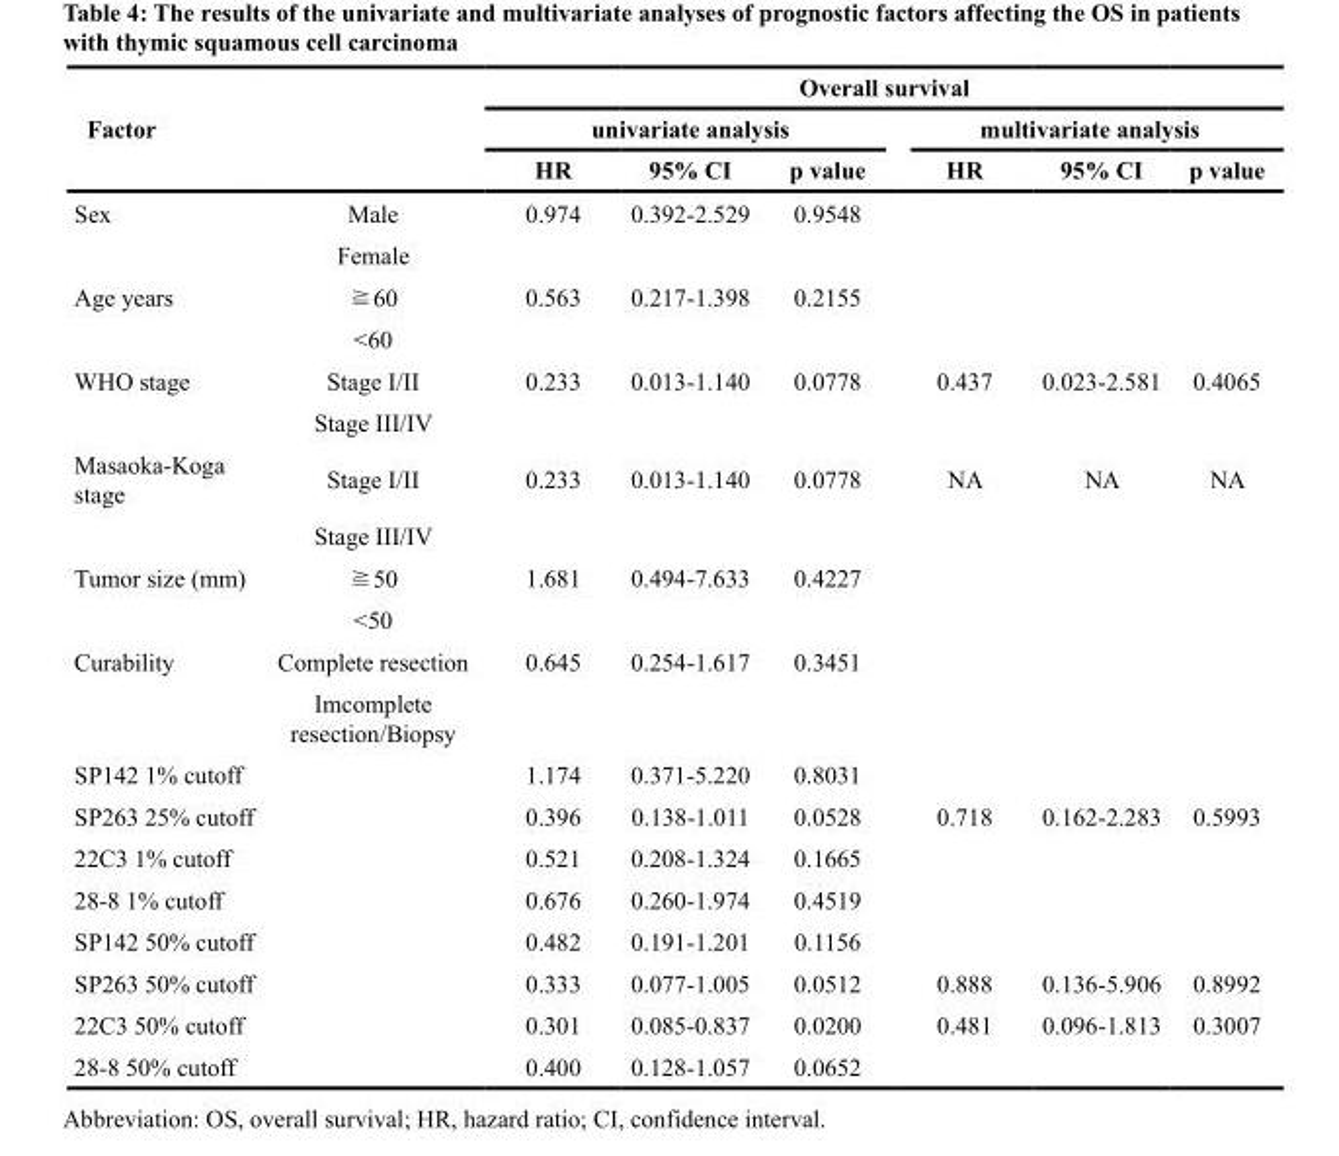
<table><thead><tr><td rowspan="3" colspan="2">Factor</td><td colspan="6">Overall survival</td></tr><tr><td colspan="3">univariate analysis</td><td colspan="3">multivariate analysis</td></tr><tr><td rowspan="2">HR 0.974</td><td rowspan="2">95% CI 0.392-2.529</td><td rowspan="2">p value 0.9548</td><td rowspan="2">HR</td><td rowspan="2">95% CI</td><td rowspan="2">p value</td></tr><tr><td>Sex</td><td>Male</td></tr></thead><tbody><tr><td></td><td>Female</td><td></td><td></td><td></td><td></td><td></td><td></td></tr><tr><td rowspan="2">Age years</td><td>≧60</td><td>0.563</td><td>0.217-1.398</td><td>0.2155</td><td></td><td></td><td></td></tr><tr><td>&lt;60</td><td></td><td></td><td></td><td></td><td></td><td></td></tr><tr><td rowspan="2">WHO stage</td><td>Stage I/II</td><td>0.233</td><td>0.013-1.140</td><td>0.0778</td><td>0.437</td><td>0.023-2.581</td><td>0.4065</td></tr><tr><td>Stage III/IV</td><td></td><td></td><td></td><td></td><td></td><td></td></tr><tr><td rowspan="2">Masaoka-Koga stage</td><td>Stage I/II</td><td>0.233</td><td>0.013-1.140</td><td>0.0778</td><td>NA</td><td>NA</td><td>NA</td></tr><tr><td>Stage III/IV</td><td></td><td></td><td></td><td></td><td></td><td></td></tr><tr><td rowspan="2">Tumor size (mm)</td><td>≧50</td><td>1.681</td><td>0.494-7.633</td><td>0.4227</td><td></td><td></td><td></td></tr><tr><td>&lt;50</td><td></td><td></td><td></td><td></td><td></td><td></td></tr><tr><td rowspan="2">Curability</td><td>Complete resection</td><td>0.645</td><td>0.254-1.617</td><td>0.3451</td><td></td><td></td><td></td></tr><tr><td>Imcomplete resection/Biopsy</td><td></td><td></td><td></td><td></td><td></td><td></td></tr><tr><td>SP142 1% cutoff</td><td></td><td>1.174</td><td>0.371-5.220</td><td>0.8031</td><td></td><td></td><td></td></tr><tr><td>SP263 25% cutoff</td><td></td><td>0.396</td><td>0.138-1.011</td><td>0.0528</td><td>0.718</td><td>0.162-2.283</td><td>0.5993</td></tr><tr><td>22C3 1% cutoff</td><td></td><td>0.521</td><td>0.208-1.324</td><td>0.1665</td><td></td><td></td><td></td></tr><tr><td>28-8 1% cutoff</td><td></td><td>0.676</td><td>0.260-1.974</td><td>0.4519</td><td></td><td></td><td></td></tr><tr><td>SP142 50% cutoff</td><td></td><td>0.482</td><td>0.191-1.201</td><td>0.1156</td><td></td><td></td><td></td></tr><tr><td>SP263 50% cutoff</td><td></td><td>0.333</td><td>0.077-1.005</td><td>0.0512</td><td>0.888</td><td>0.136-5.906</td><td>0.8992</td></tr><tr><td>22C3 50% cutoff</td><td></td><td>0.301</td><td>0.085-0.837</td><td>0.0200</td><td>0.481</td><td>0.096-1.813</td><td>0.3007</td></tr><tr><td>28-8 50% cutoff</td><td></td><td>0.400</td><td>0.128-1.057</td><td>0.0652</td><td></td><td></td><td></td></tr></tbody></table>